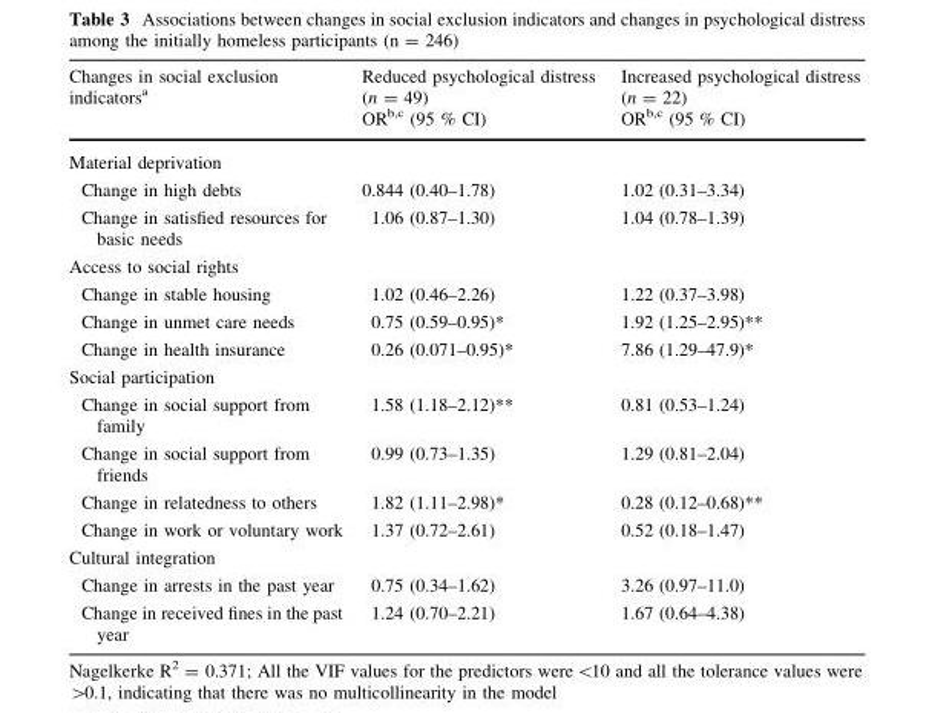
<table><thead><tr><td rowspan="2">Changes in social exclusion indicators<sup>a</sup></td><td rowspan="2">Reduced psychological distress (n = 49) OR<sup>b,c</sup> (95 % CI)</td><td rowspan="2">Increased psychological distress (n = 22) OR<sup>b,c</sup> (95 % CI)</td></tr><tr></tr></thead><tbody><tr><td colspan="3">Material deprivation</td></tr><tr><td>Change in high debts</td><td>0.844 (0.40–1.78)</td><td>1.02 (0.31–3.34)</td></tr><tr><td>Change in satisfied resources for basic needs</td><td>1.06 (0.87–1.30)</td><td>1.04 (0.78–1.39)</td></tr><tr><td colspan="3">Access to social rights</td></tr><tr><td>Change in stable housing</td><td>1.02 (0.46–2.26)</td><td>1.22 (0.37–3.98)</td></tr><tr><td>Change in unmet care needs</td><td>0.75 (0.59–0.95)*</td><td>1.92 (1.25–2.95)**</td></tr><tr><td>Change in health insurance</td><td>0.26 (0.071–0.95)*</td><td>7.86 (1.29–47.9)*</td></tr><tr><td colspan="3">Social participation</td></tr><tr><td>Change in social support from family</td><td>1.58 (1.18–2.12)**</td><td>0.81 (0.53–1.24)</td></tr><tr><td>Change in social support from friends</td><td>0.99 (0.73–1.35)</td><td>1.29 (0.81–2.04)</td></tr><tr><td>Change in relatedness to others</td><td>1.82 (1.11–2.98)*</td><td>0.28 (0.12–0.68)**</td></tr><tr><td>Change in work or voluntary work</td><td>1.37 (0.72–2.61)</td><td>0.52 (0.18–1.47)</td></tr><tr><td colspan="3">Cultural integration</td></tr><tr><td>Change in arrests in the past year</td><td>0.75 (0.34–1.62)</td><td>3.26 (0.97–11.0)</td></tr><tr><td>Change in received fines in the past year</td><td>1.24 (0.70–2.21)</td><td>1.67 (0.64–4.38)</td></tr></tbody></table>